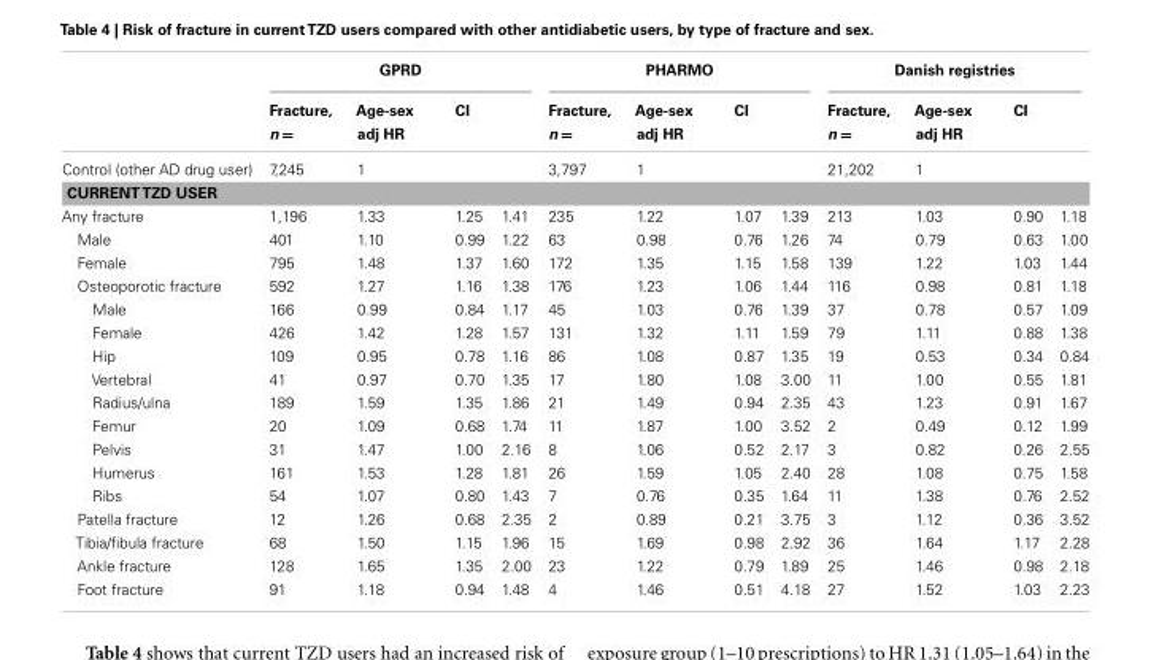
<table><thead><tr><td rowspan="2"></td><td colspan="4">GPRD</td><td colspan="4">PHARMO</td><td colspan="4">Danish registries</td></tr><tr><td>Fracture, n =</td><td>Age-sex adj HR</td><td>CI</td><td></td><td>Fracture, n =</td><td>Age-sex adj HR</td><td>CI</td><td></td><td>Fracture, n =</td><td>Age-sex adj HR</td><td>CI</td><td></td></tr></thead><tbody><tr><td>Control (other AD drug user)</td><td>7,245</td><td>1</td><td></td><td></td><td>3,797</td><td>1</td><td></td><td></td><td>21,202</td><td>1</td><td></td><td></td></tr><tr><td colspan="13">CURRENTTZD USER</td></tr><tr><td>Any fracture</td><td>1,196</td><td>1.33</td><td>1.25</td><td>1.41</td><td>235</td><td>1.22</td><td>1.07</td><td>1.39</td><td>213</td><td>1.03</td><td>0.90</td><td>1.18</td></tr><tr><td>Male</td><td>401</td><td>1.10</td><td>0.99</td><td>1.22</td><td>63</td><td>0.98</td><td>0.76</td><td>1.26</td><td>74</td><td>0.79</td><td>0.63</td><td>1.00</td></tr><tr><td>Female</td><td>795</td><td>1.48</td><td>1.37</td><td>1.60</td><td>172</td><td>1.35</td><td>1.15</td><td>1.58</td><td>139</td><td>1.22</td><td>1.03</td><td>1.44</td></tr><tr><td>Osteoporotic fracture</td><td>592</td><td>1.27</td><td>1.16</td><td>1.38</td><td>176</td><td>1.23</td><td>1.06</td><td>1.44</td><td>116</td><td>0.98</td><td>0.81</td><td>1.18</td></tr><tr><td>Male</td><td>166</td><td>0.99</td><td>0.84</td><td>1.17</td><td>45</td><td>1.03</td><td>0.76</td><td>1.39</td><td>37</td><td>0.78</td><td>0.57</td><td>1.09</td></tr><tr><td>Female</td><td>426</td><td>1.42</td><td>1.28</td><td>1.57</td><td>131</td><td>1.32</td><td>1.11</td><td>1.59</td><td>79</td><td>1.11</td><td>0.88</td><td>1.38</td></tr><tr><td>Hip</td><td>109</td><td>0.95</td><td>0.78</td><td>1.16</td><td>86</td><td>1.08</td><td>0.87</td><td>1.35</td><td>19</td><td>0.53</td><td>0.34</td><td>0.84</td></tr><tr><td>Vertebral</td><td>41</td><td>0.97</td><td>0.70</td><td>1.35</td><td>17</td><td>1.80</td><td>1.08</td><td>3.00</td><td>11</td><td>1.00</td><td>0.55</td><td>1.81</td></tr><tr><td>Radius/ulna</td><td>189</td><td>1.59</td><td>1.35</td><td>1.86</td><td>21</td><td>1.49</td><td>0.94</td><td>2.35</td><td>43</td><td>1.23</td><td>0.91</td><td>1.67</td></tr><tr><td>Femur</td><td>20</td><td>1.09</td><td>0.68</td><td>1.74</td><td>11</td><td>1.87</td><td>1.00</td><td>3.52</td><td>2</td><td>0.49</td><td>0.12</td><td>1.99</td></tr><tr><td>Pelvis</td><td>31</td><td>1.47</td><td>1.00</td><td>2.16</td><td>8</td><td>1.06</td><td>0.52</td><td>2.17</td><td>3</td><td>0.82</td><td>0.26</td><td>2.55</td></tr><tr><td>Humerus</td><td>161</td><td>1.53</td><td>1.28</td><td>1.81</td><td>26</td><td>1.59</td><td>1.05</td><td>2.40</td><td>28</td><td>1.08</td><td>0.75</td><td>1.58</td></tr><tr><td>Ribs</td><td>54</td><td>1.07</td><td>0.80</td><td>1.43</td><td>7</td><td>0.76</td><td>0.35</td><td>1.64</td><td>11</td><td>1.38</td><td>0.76</td><td>2.52</td></tr><tr><td>Patella fracture</td><td>12</td><td>1.26</td><td>0.68</td><td>2.35</td><td>2</td><td>0.89</td><td>0.21</td><td>3.75</td><td>3</td><td>1.12</td><td>0.36</td><td>3.52</td></tr><tr><td>Tibia/fibula fracture</td><td>68</td><td>1.50</td><td>1.15</td><td>1.96</td><td>15</td><td>1.69</td><td>0.98</td><td>2.92</td><td>36</td><td>1.64</td><td>1.17</td><td>2.28</td></tr><tr><td>Ankle fracture</td><td>128</td><td>1.65</td><td>1.35</td><td>2.00</td><td>23</td><td>1.22</td><td>0.79</td><td>1.89</td><td>25</td><td>1.46</td><td>0.98</td><td>2.18</td></tr><tr><td>Foot fracture</td><td>91</td><td>1.18</td><td>0.94</td><td>1.48</td><td>4</td><td>1.46</td><td>0.51</td><td>4.18</td><td>27</td><td>1.52</td><td>1.03</td><td>2.23</td></tr></tbody></table>